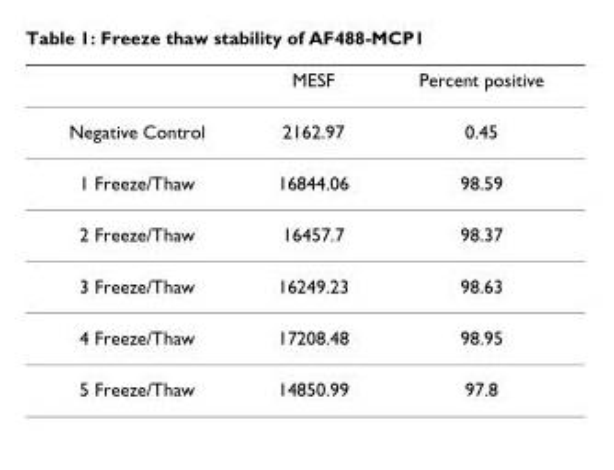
<table><thead><tr><td></td><td>MESF</td><td>Percent positive</td></tr></thead><tbody><tr><td>Negative Control</td><td>2162.97</td><td>0.45</td></tr><tr><td>1 Freeze/Thaw</td><td>16844.06</td><td>98.59</td></tr><tr><td>2 Freeze/Thaw</td><td>16457.7</td><td>98.37</td></tr><tr><td>3 Freeze/Thaw</td><td>16249.23</td><td>98.63</td></tr><tr><td>4 Freeze/Thaw</td><td>17208.48</td><td>98.95</td></tr><tr><td>5 Freeze/Thaw</td><td>14850.99</td><td>97.8</td></tr></tbody></table>